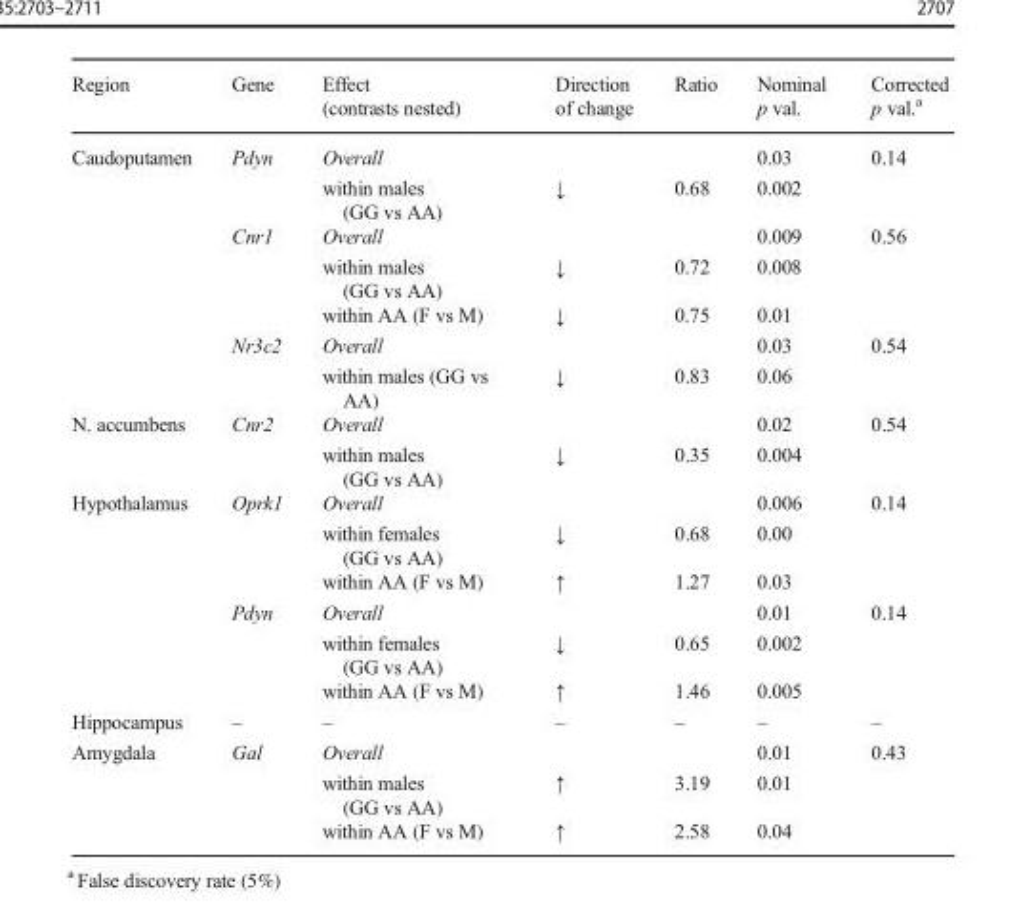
<table><thead><tr><td>Region</td><td>Gene</td><td>Effect (contrasts nested)</td><td>Direction of change</td><td>Ratio</td><td>Nominal p val.</td><td>Corrected p val.<sup>a</sup></td></tr></thead><tbody><tr><td rowspan="7">Caudoputamen</td><td>Pdyn</td><td>Overall</td><td></td><td></td><td>0.03</td><td>0.14</td></tr><tr><td></td><td>within males (GG vs AA)</td><td>↓</td><td>0.68</td><td>0.002</td><td></td></tr><tr><td>Cnr1</td><td>Overall</td><td></td><td></td><td>0.009</td><td>0.56</td></tr><tr><td></td><td>within males (GG vs AA)</td><td>↓</td><td>0.72</td><td>0.008</td><td></td></tr><tr><td></td><td>within AA (F vs M)</td><td>↓</td><td>0.75</td><td>0.01</td><td></td></tr><tr><td>Nr3c2</td><td>Overall</td><td></td><td></td><td>0.03</td><td>0.54</td></tr><tr><td></td><td>within males (GG vs AA)</td><td>↓</td><td>0.83</td><td>0.06</td><td></td></tr><tr><td rowspan="2">N. accumbens</td><td>Cnr2</td><td>Overall</td><td></td><td></td><td>0.02</td><td>0.54</td></tr><tr><td></td><td>within males (GG vs AA)</td><td>↓</td><td>0.35</td><td>0.004</td><td></td></tr><tr><td rowspan="6">Hypothalamus</td><td>Oprk1</td><td>Overall</td><td></td><td></td><td>0.006</td><td>0.14</td></tr><tr><td></td><td>within females (GG vs AA)</td><td>↓</td><td>0.68</td><td>0.00</td><td></td></tr><tr><td></td><td>within AA (F vs M)</td><td>↑</td><td>1.27</td><td>0.03</td><td></td></tr><tr><td>Pdyn</td><td>Overall</td><td></td><td></td><td>0.01</td><td>0.14</td></tr><tr><td></td><td>within females (GG vs AA)</td><td>↓</td><td>0.65</td><td>0.002</td><td></td></tr><tr><td></td><td>within AA (F vs M)</td><td>↑</td><td>1.46</td><td>0.005</td><td></td></tr><tr><td>Hippocampus</td><td>–</td><td>–</td><td>–</td><td>–</td><td>–</td><td>–</td></tr><tr><td rowspan="3">Amygdala</td><td>Gal</td><td>Overall</td><td></td><td></td><td>0.01</td><td>0.43</td></tr><tr><td></td><td>within males (GG vs AA)</td><td>↑</td><td>3.19</td><td>0.01</td><td></td></tr><tr><td></td><td>within AA (F vs M)</td><td>↑</td><td>2.58</td><td>0.04</td><td></td></tr></tbody></table>